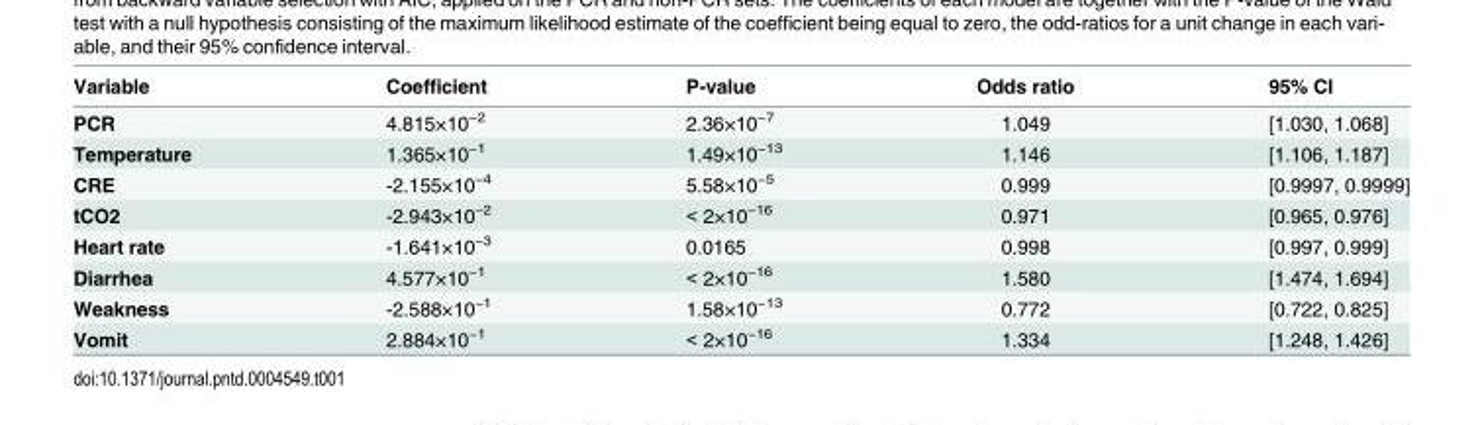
<table><thead><tr><td>Variable</td><td>Coefficient</td><td>P-value</td><td>Odds ratio</td><td>95% CI</td></tr></thead><tbody><tr><td>PCR</td><td>4.815×10<sup>−2</sup></td><td>2.36×10<sup>−7</sup></td><td>1.049</td><td>[1.030, 1.068]</td></tr><tr><td>Temperature</td><td>1.365×10<sup>−1</sup></td><td>1.49×10<sup>−13</sup></td><td>1.146</td><td>[1.106, 1.187]</td></tr><tr><td>CRE</td><td>-2.155×10<sup>−4</sup></td><td>5.58×10<sup>−5</sup></td><td>0.999</td><td>[0.9997, 0.9999]</td></tr><tr><td>tCO2</td><td>-2.943×10<sup>−2</sup></td><td>&lt; 2×10<sup>−16</sup></td><td>0.971</td><td>[0.965, 0.976]</td></tr><tr><td>Heart rate</td><td>-1.641×10<sup>−3</sup></td><td>0.0165</td><td>0.998</td><td>[0.997, 0.999]</td></tr><tr><td>Diarrhea</td><td>4.577×10<sup>−1</sup></td><td>&lt; 2×10<sup>−16</sup></td><td>1.580</td><td>[1.474, 1.694]</td></tr><tr><td>Weakness</td><td>-2.588×10<sup>−1</sup></td><td>1.58×10<sup>−13</sup></td><td>0.772</td><td>[0.722, 0.825]</td></tr><tr><td>Vomit</td><td>2.884×10<sup>−1</sup></td><td>&lt; 2×10<sup>−16</sup></td><td>1.334</td><td>[1.248, 1.426]</td></tr></tbody></table>